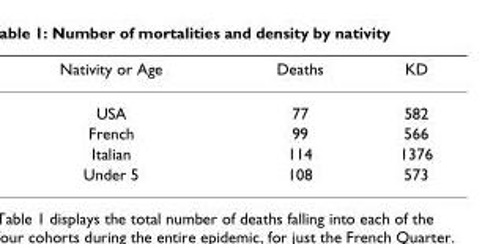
<table><thead><tr><td>Nativity or Age</td><td>Deaths</td><td>KD</td></tr></thead><tbody><tr><td>USA</td><td>77</td><td>582</td></tr><tr><td>French</td><td>99</td><td>566</td></tr><tr><td>Italian</td><td>114</td><td>1376</td></tr><tr><td>Under 5</td><td>108</td><td>573</td></tr></tbody></table>